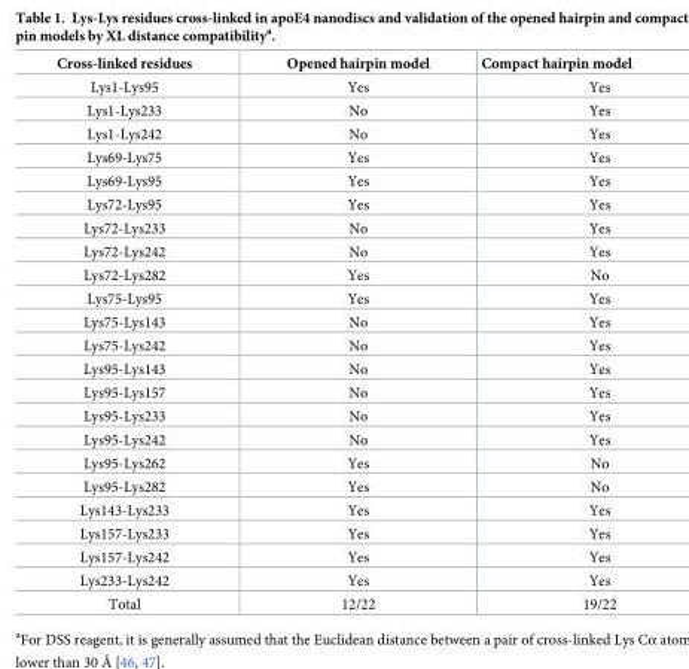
<table><thead><tr><td>Cross-linked residues</td><td>Opened hairpin model</td><td>Compact hairpin model</td></tr></thead><tbody><tr><td>Lys1-Lys95</td><td>Yes</td><td>Yes</td></tr><tr><td>Lys1-Lys233</td><td>No</td><td>Yes</td></tr><tr><td>Lys1-Lys242</td><td>No</td><td>Yes</td></tr><tr><td>Lys69-Lys75</td><td>Yes</td><td>Yes</td></tr><tr><td>Lys69-Lys95</td><td>Yes</td><td>Yes</td></tr><tr><td>Lys72-Lys95</td><td>Yes</td><td>Yes</td></tr><tr><td>Lys72-Lys233</td><td>No</td><td>Yes</td></tr><tr><td>Lys72-Lys242</td><td>No</td><td>Yes</td></tr><tr><td>Lys72-Lys282</td><td>Yes</td><td>No</td></tr><tr><td>Lys75-Lys95</td><td>Yes</td><td>Yes</td></tr><tr><td>Lys75-Lys143</td><td>No</td><td>Yes</td></tr><tr><td>Lys75-Lys242</td><td>No</td><td>Yes</td></tr><tr><td>Lys95-Lys143</td><td>No</td><td>Yes</td></tr><tr><td>Lys95-Lys157</td><td>No</td><td>Yes</td></tr><tr><td>Lys95-Lys233</td><td>No</td><td>Yes</td></tr><tr><td>Lys95-Lys242</td><td>No</td><td>Yes</td></tr><tr><td>Lys95-Lys262</td><td>Yes</td><td>No</td></tr><tr><td>Lys95-Lys282</td><td>Yes</td><td>No</td></tr><tr><td>Lys143-Lys233</td><td>Yes</td><td>Yes</td></tr><tr><td>Lys157-Lys233</td><td>Yes</td><td>Yes</td></tr><tr><td>Lys157-Lys242</td><td>Yes</td><td>Yes</td></tr><tr><td>Lys233-Lys242</td><td>Yes</td><td>Yes</td></tr><tr><td>Total</td><td>12/22</td><td>19/22</td></tr></tbody></table>